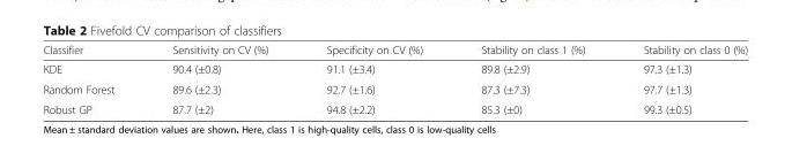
<table><thead><tr><td>Classifier</td><td>Sensitivity on CV (%)</td><td>Specificity on CV (%)</td><td>Stability on class 1 (%)</td><td>Stability on class 0 (%)</td></tr></thead><tbody><tr><td>KDE</td><td>90.4 (±0.8)</td><td>91.1 (±3.4)</td><td>89.8 (±2.9)</td><td>97.3 (±1.3)</td></tr><tr><td>Random Forest</td><td>89.6 (±2.3)</td><td>92.7 (±1.6)</td><td>87.3 (±7.3)</td><td>97.7 (±1.3)</td></tr><tr><td>Robust GP</td><td>87.7 (±2)</td><td>94.8 (±2.2)</td><td>85.3 (±0)</td><td>99.3 (±0.5)</td></tr></tbody></table>